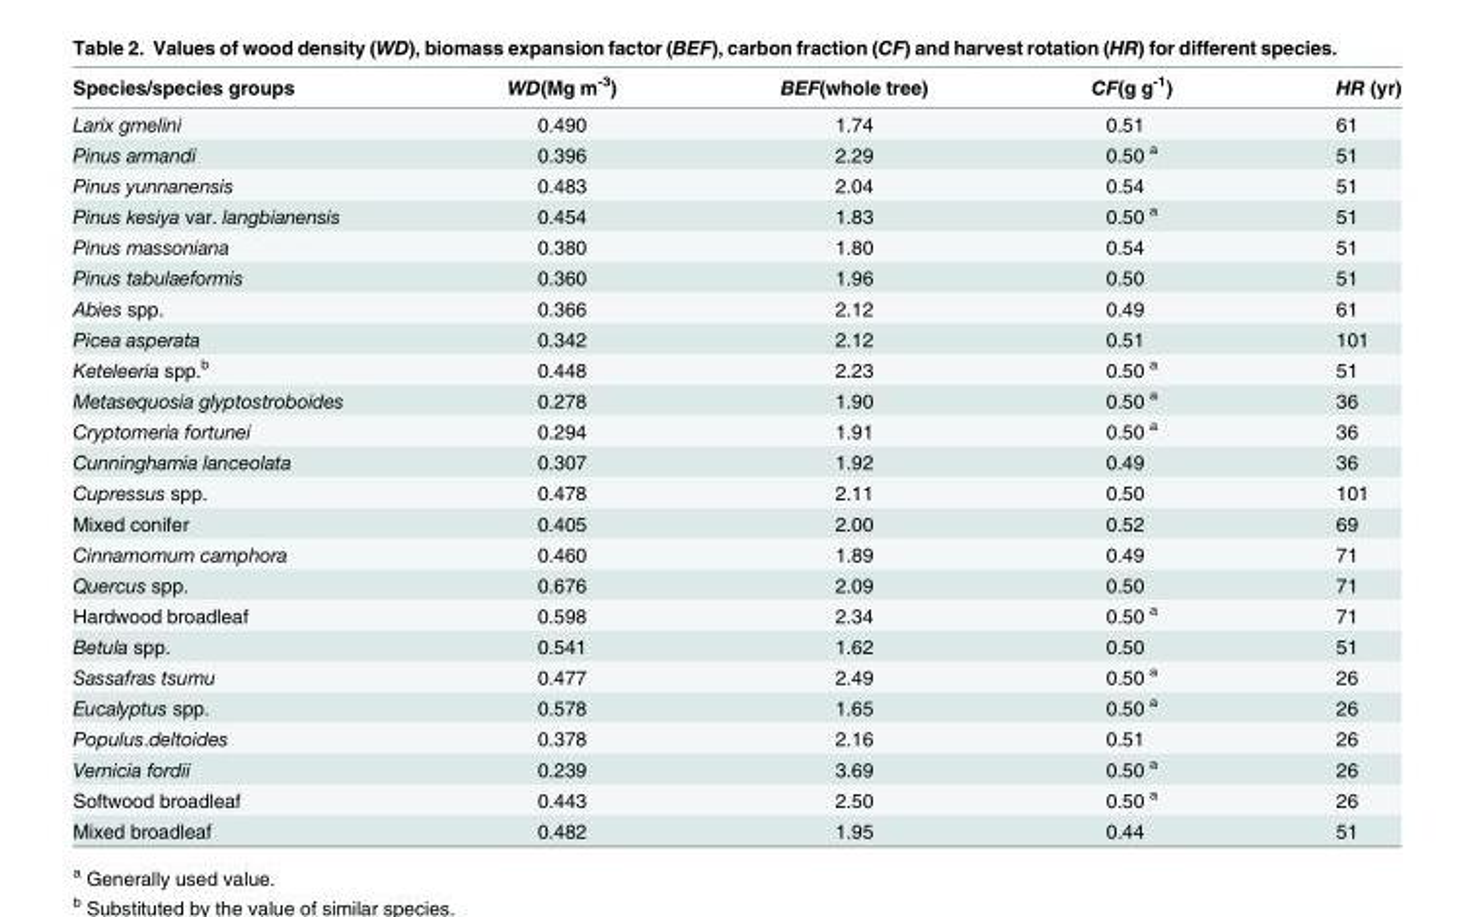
<table><thead><tr><td>Species/species groups</td><td>WD(Mg m<sup>-3</sup>)</td><td>BEF(whole tree)</td><td>CF(g g<sup>-1</sup>)</td><td>HR (yr)</td></tr></thead><tbody><tr><td>Larix gmelini</td><td>0.490</td><td>1.74</td><td>0.51</td><td>61</td></tr><tr><td>Pinus armandi</td><td>0.396</td><td>2.29</td><td>0.50 <sup>a</sup></td><td>51</td></tr><tr><td>Pinus yunnanensis</td><td>0.483</td><td>2.04</td><td>0.54</td><td>51</td></tr><tr><td>Pinus kesiya var. langbianensis</td><td>0.454</td><td>1.83</td><td>0.50 <sup>a</sup></td><td>51</td></tr><tr><td>Pinus massoniana</td><td>0.380</td><td>1.80</td><td>0.54</td><td>51</td></tr><tr><td>Pinus tabulaeformis</td><td>0.360</td><td>1.96</td><td>0.50</td><td>51</td></tr><tr><td>Abies spp.</td><td>0.366</td><td>2.12</td><td>0.49</td><td>61</td></tr><tr><td>Picea asperata</td><td>0.342</td><td>2.12</td><td>0.51</td><td>101</td></tr><tr><td>Keteleeria spp.<sup>b</sup></td><td>0.448</td><td>2.23</td><td>0.50 <sup>a</sup></td><td>51</td></tr><tr><td>Metasequosia glyptostroboides</td><td>0.278</td><td>1.90</td><td>0.50 <sup>a</sup></td><td>36</td></tr><tr><td>Cryptomeria fortunei</td><td>0.294</td><td>1.91</td><td>0.50 <sup>a</sup></td><td>36</td></tr><tr><td>Cunninghamia lanceolata</td><td>0.307</td><td>1.92</td><td>0.49</td><td>36</td></tr><tr><td>Cupressus spp.</td><td>0.478</td><td>2.11</td><td>0.50</td><td>101</td></tr><tr><td>Mixed conifer</td><td>0.405</td><td>2.00</td><td>0.52</td><td>69</td></tr><tr><td>Cinnamomum camphora</td><td>0.460</td><td>1.89</td><td>0.49</td><td>71</td></tr><tr><td>Quercus spp.</td><td>0.676</td><td>2.09</td><td>0.50</td><td>71</td></tr><tr><td>Hardwood broadleaf</td><td>0.598</td><td>2.34</td><td>0.50 <sup>a</sup></td><td>71</td></tr><tr><td>Betula spp.</td><td>0.541</td><td>1.62</td><td>0.50</td><td>51</td></tr><tr><td>Sassafras tsumu</td><td>0.477</td><td>2.49</td><td>0.50 <sup>a</sup></td><td>26</td></tr><tr><td>Eucalyptus spp.</td><td>0.578</td><td>1.65</td><td>0.50 <sup>a</sup></td><td>26</td></tr><tr><td>Populus.deltoides</td><td>0.378</td><td>2.16</td><td>0.51</td><td>26</td></tr><tr><td>Vernicia fordii</td><td>0.239</td><td>3.69</td><td>0.50 <sup>a</sup></td><td>26</td></tr><tr><td>Softwood broadleaf</td><td>0.443</td><td>2.50</td><td>0.50 <sup>a</sup></td><td>26</td></tr><tr><td>Mixed broadleaf</td><td>0.482</td><td>1.95</td><td>0.44</td><td>51</td></tr></tbody></table>